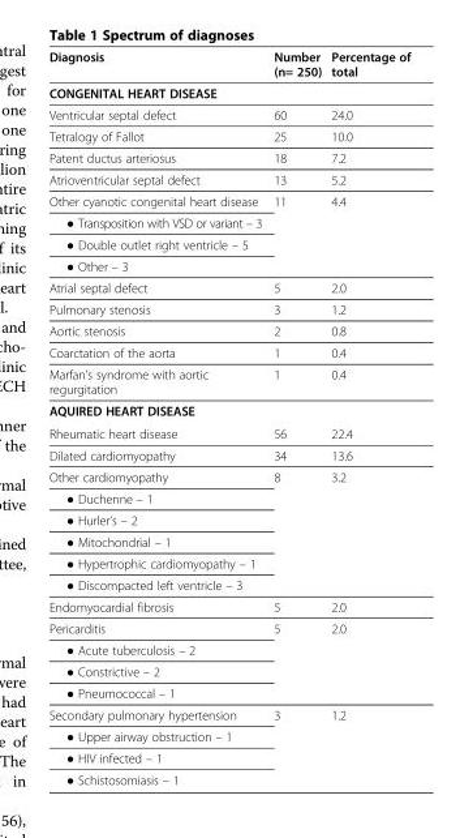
<table><thead><tr><td>Diagnosis</td><td>Number (n= 250)</td><td>Percentage of total</td></tr></thead><tbody><tr><td colspan="3">CONGENITAL HEART DISEASE</td></tr><tr><td>Ventricular septal defect</td><td>60</td><td>24.0</td></tr><tr><td>Tetralogy of Fallot</td><td>25</td><td>10.0</td></tr><tr><td>Patent ductus arteriosus</td><td>18</td><td>7.2</td></tr><tr><td>Atrioventricular septal defect</td><td>13</td><td>5.2</td></tr><tr><td>Other cyanotic congenital heart disease</td><td>11</td><td>4.4</td></tr><tr><td colspan="3">● Transposition with VSD or variant – 3</td></tr><tr><td colspan="3">● Double outlet right ventricle – 5</td></tr><tr><td colspan="3">● Other – 3</td></tr><tr><td>Atrial septal defect</td><td>5</td><td>2.0</td></tr><tr><td>Pulmonary stenosis</td><td>3</td><td>1.2</td></tr><tr><td>Aortic stenosis</td><td>2</td><td>0.8</td></tr><tr><td>Coarctation of the aorta</td><td>1</td><td>0.4</td></tr><tr><td>Marfan’s syndrome with aortic regurgitation</td><td>1</td><td>0.4</td></tr><tr><td colspan="3">AQUIRED HEART DISEASE</td></tr><tr><td>Rheumatic heart disease</td><td>56</td><td>22.4</td></tr><tr><td>Dilated cardiomyopathy</td><td>34</td><td>13.6</td></tr><tr><td>Other cardiomyopathy</td><td>8</td><td>3.2</td></tr><tr><td colspan="3">● Duchenne – 1</td></tr><tr><td colspan="3">● Hurler’s – 2</td></tr><tr><td colspan="3">● Mitochondrial – 1</td></tr><tr><td colspan="3">● Hypertrophic cardiomyopathy – 1</td></tr><tr><td colspan="3">● Discompacted left ventricle – 3</td></tr><tr><td>Endomyocardial fibrosis</td><td>5</td><td>2.0</td></tr><tr><td>Pericarditis</td><td>5</td><td>2.0</td></tr><tr><td colspan="3">● Acute tuberculosis – 2</td></tr><tr><td colspan="3">● Constrictive – 2</td></tr><tr><td colspan="3">● Pneumococcal – 1</td></tr><tr><td>Secondary pulmonary hypertension</td><td>3</td><td>1.2</td></tr><tr><td colspan="3">● Upper airway obstruction – 1</td></tr><tr><td colspan="3">● HIV infected – 1</td></tr><tr><td>● Schistosomiasis – 1</td><td></td><td></td></tr></tbody></table>